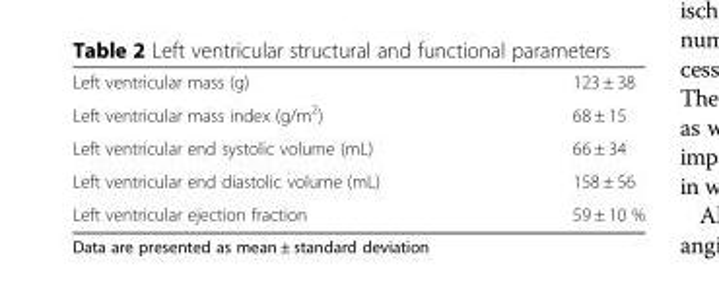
<table><tbody><tr><td>Left ventricular mass (g)</td><td>123 ± 38</td></tr><tr><td>Left ventricular mass index (g/m<sup>2</sup>)</td><td>68 ± 15</td></tr><tr><td>Left ventricular end systolic volume (mL)</td><td>66 ± 34</td></tr><tr><td>Left ventricular end diastolic volume (mL)</td><td>158 ± 56</td></tr><tr><td>Left ventricular ejection fraction</td><td>59 ± 10 %</td></tr></tbody></table>